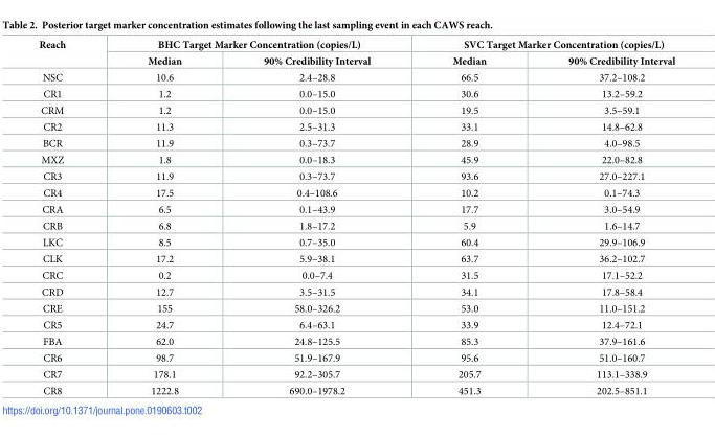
<table><thead><tr><td rowspan="2">Reach</td><td colspan="2">BHC Target Marker Concentration (copies/L)</td><td colspan="2">SVC Target Marker Concentration (copies/L)</td></tr><tr><td>Median</td><td>90% Credibility Interval</td><td>Median</td><td>90% Credibility Interval</td></tr></thead><tbody><tr><td>NSC</td><td>10.6</td><td>2.4–28.8</td><td>66.5</td><td>37.2–108.2</td></tr><tr><td>CR1</td><td>1.2</td><td>0.0–15.0</td><td>30.6</td><td>13.2–59.2</td></tr><tr><td>CRM</td><td>1.2</td><td>0.0–15.0</td><td>19.5</td><td>3.5–59.1</td></tr><tr><td>CR2</td><td>11.3</td><td>2.5–31.3</td><td>33.1</td><td>14.8–62.8</td></tr><tr><td>BCR</td><td>11.9</td><td>0.3–73.7</td><td>28.9</td><td>4.0–98.5</td></tr><tr><td>MXZ</td><td>1.8</td><td>0.0–18.3</td><td>45.9</td><td>22.0–82.8</td></tr><tr><td>CR3</td><td>11.9</td><td>0.3–73.7</td><td>93.6</td><td>27.0–227.1</td></tr><tr><td>CR4</td><td>17.5</td><td>0.4–108.6</td><td>10.2</td><td>0.1–74.3</td></tr><tr><td>CRA</td><td>6.5</td><td>0.1–43.9</td><td>17.7</td><td>3.0–54.9</td></tr><tr><td>CRB</td><td>6.8</td><td>1.8–17.2</td><td>5.9</td><td>1.6–14.7</td></tr><tr><td>LKC</td><td>8.5</td><td>0.7–35.0</td><td>60.4</td><td>29.9–106.9</td></tr><tr><td>CLK</td><td>17.2</td><td>5.9–38.1</td><td>63.7</td><td>36.2–102.7</td></tr><tr><td>CRC</td><td>0.2</td><td>0.0–7.4</td><td>31.5</td><td>17.1–52.2</td></tr><tr><td>CRD</td><td>12.7</td><td>3.5–31.5</td><td>34.1</td><td>17.8–58.4</td></tr><tr><td>CRE</td><td>155</td><td>58.0–326.2</td><td>53.0</td><td>11.0–151.2</td></tr><tr><td>CR5</td><td>24.7</td><td>6.4–63.1</td><td>33.9</td><td>12.4–72.1</td></tr><tr><td>FBA</td><td>62.0</td><td>24.8–125.5</td><td>85.3</td><td>37.9–161.6</td></tr><tr><td>CR6</td><td>98.7</td><td>51.9–167.9</td><td>95.6</td><td>51.0–160.7</td></tr><tr><td>CR7</td><td>178.1</td><td>92.2–305.7</td><td>205.7</td><td>113.1–338.9</td></tr><tr><td>CR8</td><td>1222.8</td><td>690.0–1978.2</td><td>451.3</td><td>202.5–851.1</td></tr></tbody></table>